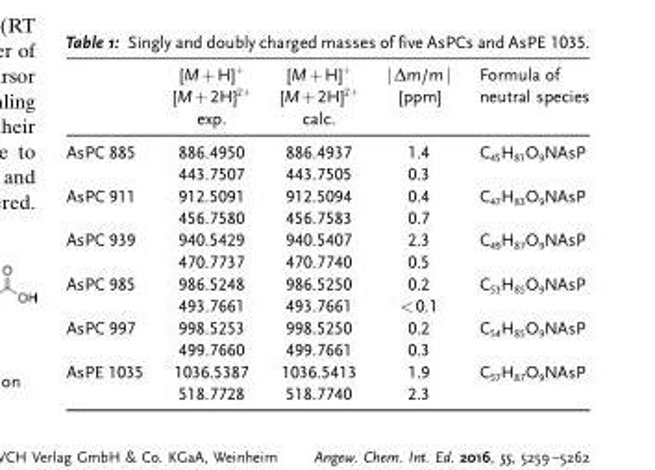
<table><thead><tr><td></td><td>[M+H]<sup>+</sup> [M+2H]<sup>2+</sup> exp.</td><td>[M+H]<sup>+</sup> [M+2H]<sup>2+</sup> calc.</td><td>|Δm/m| [ppm]</td><td>Formula of neutral species</td></tr></thead><tbody><tr><td>AsPC 885</td><td>886.4950 443.7507</td><td>886.4937 443.7505</td><td>1.4 0.3</td><td>C<sub>45</sub>H<sub>81</sub>O<sub>9</sub>NAsP</td></tr><tr><td>AsPC 911</td><td>912.5091 456.7580</td><td>912.5094 456.7583</td><td>0.4 0.7</td><td>C<sub>47</sub>H<sub>83</sub>O<sub>9</sub>NAsP</td></tr><tr><td>AsPC 939</td><td>940.5429 470.7737</td><td>940.5407 470.7740</td><td>2.3 0.5</td><td>C<sub>49</sub>H<sub>87</sub>O<sub>9</sub>NAsP</td></tr><tr><td>AsPC 985</td><td>986.5248 493.7661</td><td>986.5250 493.7661</td><td>0.2 &lt;0.1</td><td>C<sub>53</sub>H<sub>85</sub>O<sub>9</sub>NAsP</td></tr><tr><td>AsPC 997</td><td>998.5253 499.7660</td><td>998.5250 499.7661</td><td>0.2 0.3</td><td>C<sub>54</sub>H<sub>85</sub>O<sub>9</sub>NAsP</td></tr><tr><td>AsPE 1035</td><td>1036.5387 518.7728</td><td>1036.5413 518.7740</td><td>1.9 2.3</td><td>C<sub>57</sub>H<sub>87</sub>O<sub>9</sub>NAsP</td></tr></tbody></table>